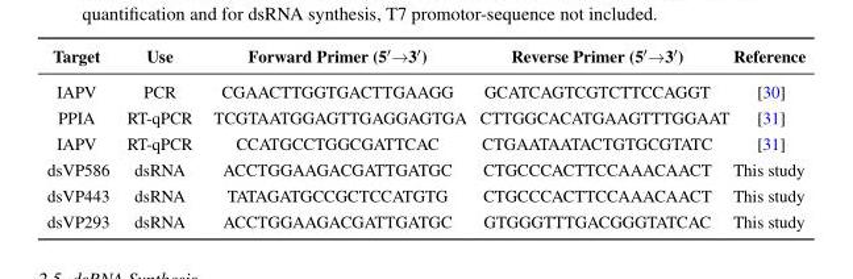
<table><thead><tr><td>Target</td><td>Use</td><td>Forward Primer (5′→3′)</td><td>Reverse Primer (5′→3′)</td><td>Reference</td></tr></thead><tbody><tr><td>IAPV</td><td>PCR</td><td>CGAACTTGGTGACTTGAAGG</td><td>GCATCAGTCGTCTTCCAGGT</td><td>[30]</td></tr><tr><td>PPIA</td><td>RT-qPCR</td><td>TCGTAATGGAGTTGAGGAGTGA</td><td>CTTGGCACATGAAGTTTGGAAT</td><td>[31]</td></tr><tr><td>IAPV</td><td>RT-qPCR</td><td>CCATGCCTGGCGATTCAC</td><td>CTGAATAATACTGTGCGTATC</td><td>[31]</td></tr><tr><td>dsVP586</td><td>dsRNA</td><td>ACCTGGAAGACGATTGATGC</td><td>CTGCCCACTTCCAAACAACT</td><td>This study</td></tr><tr><td>dsVP443</td><td>dsRNA</td><td>TATAGATGCCGCTCCATGTG</td><td>CTGCCCACTTCCAAACAACT</td><td>This study</td></tr><tr><td>dsVP293</td><td>dsRNA</td><td>ACCTGGAAGACGATTGATGC</td><td>GTGGGTTTGACGGGTATCAC</td><td>This study</td></tr></tbody></table>